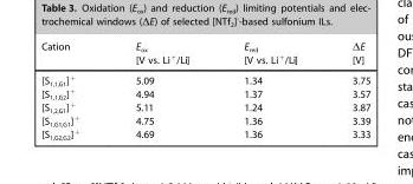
<table><thead><tr><td>Cation</td><td>E<sub>ox</sub> [V vs. Li<sup>+</sup>/Li]</td><td>E<sub>red</sub> [V vs. Li<sup>+</sup>/Li]</td><td>ΔE [V]</td></tr></thead><tbody><tr><td>[S<sub>1,1,G1</sub>]<sup>+</sup></td><td>5.09</td><td>1.34</td><td>3.75</td></tr><tr><td>[S<sub>1,1,G2</sub>]<sup>+</sup></td><td>4.94</td><td>1.37</td><td>3.57</td></tr><tr><td>[S<sub>1,2,G1</sub>]<sup>+</sup></td><td>5.11</td><td>1.24</td><td>3.87</td></tr><tr><td>[S<sub>1,G1,G1</sub>]<sup>+</sup></td><td>4.75</td><td>1.36</td><td>3.39</td></tr><tr><td>[S<sub>1,G2,G2</sub>]<sup>+</sup></td><td>4.69</td><td>1.36</td><td>3.33</td></tr></tbody></table>